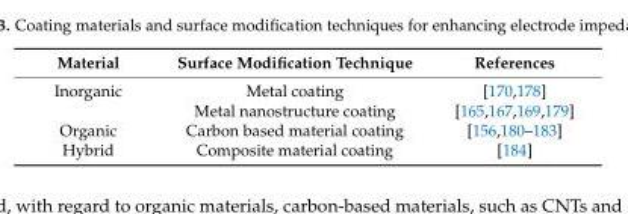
<table><thead><tr><td>Material</td><td>Surface Modification Technique</td><td>References</td></tr></thead><tbody><tr><td rowspan="2">Inorganic</td><td>Metal coating</td><td>[170,178]</td></tr><tr><td>Metal nanostructure coating</td><td>[165,167,169,179]</td></tr><tr><td>Organic</td><td>Carbon based material coating</td><td>[156,180–183]</td></tr><tr><td>Hybrid</td><td>Composite material coating</td><td>[184]</td></tr></tbody></table>